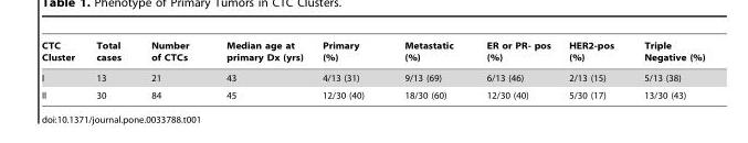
<table><thead><tr><td>CTC Cluster</td><td>Total cases</td><td>Number of CTCs</td><td>Median age at primary Dx (yrs)</td><td>Primary (%)</td><td>Metastatic (%)</td><td>ER or PR- pos (%)</td><td>HER2-pos (%)</td><td>Triple Negative (%)</td></tr></thead><tbody><tr><td>I</td><td>13</td><td>21</td><td>43</td><td>4/13 (31)</td><td>9/13 (69)</td><td>6/13 (46)</td><td>2/13 (15)</td><td>5/13 (38)</td></tr><tr><td>II</td><td>30</td><td>84</td><td>45</td><td>12/30 (40)</td><td>18/30 (60)</td><td>12/30 (40)</td><td>5/30 (17)</td><td>13/30 (43)</td></tr></tbody></table>